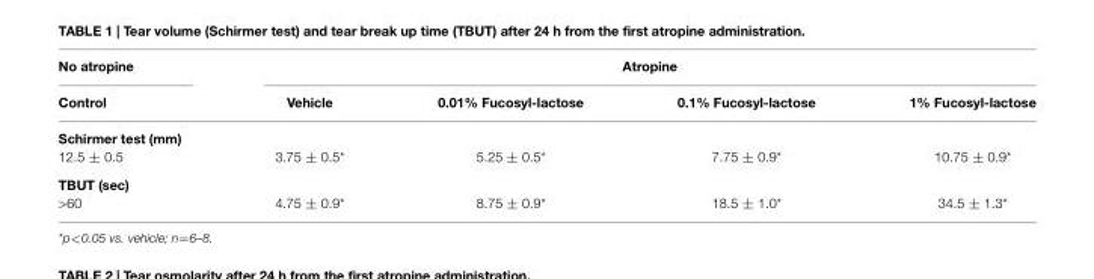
<table><thead><tr><td rowspan="2">No atropine Control</td><td colspan="4">Atropine</td></tr><tr><td>Vehicle</td><td>0.01% Fucosyl-lactose</td><td>0.1% Fucosyl-lactose</td><td>1% Fucosyl-lactose</td></tr></thead><tbody><tr><td colspan="5">Schirmer test (mm)</td></tr><tr><td>12.5 ± 0.5</td><td>3.75 ± 0.5*</td><td>5.25 ± 0.5*</td><td>7.75 ± 0.9*</td><td>10.75 ± 0.9*</td></tr><tr><td colspan="5">TBUT (sec)</td></tr><tr><td>&gt;60</td><td>4.75 ± 0.9*</td><td>8.75 ± 0.9*</td><td>18.5 ± 1.0*</td><td>34.5 ± 1.3*</td></tr></tbody></table>